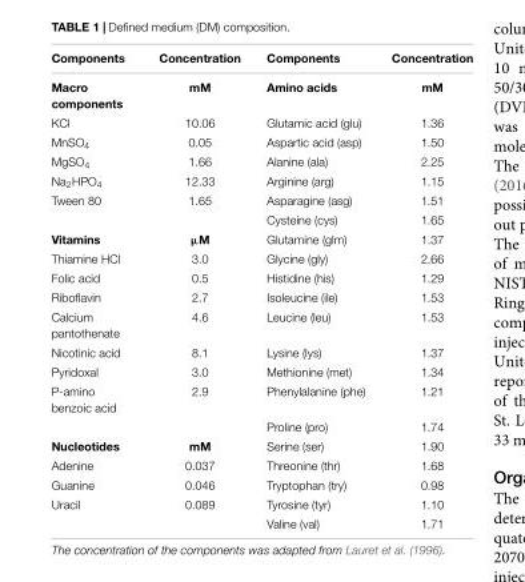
<table><thead><tr><td>Components</td><td>Concentration</td><td>Components</td><td>Concentration</td></tr></thead><tbody><tr><td>Macro components</td><td>mM</td><td>Amino acids</td><td>mM</td></tr><tr><td>KCl</td><td>10.06</td><td>Glutamic acid (glu)</td><td>1.36</td></tr><tr><td>MnSO<sub>4</sub></td><td>0.05</td><td>Aspartic acid (asp)</td><td>1.50</td></tr><tr><td>MgSO<sub>4</sub></td><td>1.66</td><td>Alanine (ala)</td><td>2.25</td></tr><tr><td>Na<sub>2</sub>HPO<sub>4</sub></td><td>12.33</td><td>Arginine (arg)</td><td>1.15</td></tr><tr><td rowspan="2">Tween 80</td><td>1.65</td><td>Asparagine (asg)</td><td>1.51</td></tr><tr><td></td><td>Cysteine (cys)</td><td>1.65</td></tr><tr><td>Vitamins</td><td>µM</td><td>Glutamine (glm)</td><td>1.37</td></tr><tr><td>Thiamine HCl</td><td>3.0</td><td>Glycine (gly)</td><td>2.66</td></tr><tr><td>Folic acid</td><td>0.5</td><td>Histidine (his)</td><td>1.29</td></tr><tr><td>Riboflavin</td><td>2.7</td><td>Isoleucine (ile)</td><td>1.53</td></tr><tr><td>Calcium pantothenate</td><td>4.6</td><td>Leucine (leu)</td><td>1.53</td></tr><tr><td>Nicotinic acid</td><td>8.1</td><td>Lysine (lys)</td><td>1.37</td></tr><tr><td>Pyridoxal</td><td>3.0</td><td>Methionine (met)</td><td>1.34</td></tr><tr><td rowspan="2">P-amino benzoic acid</td><td>2.9</td><td>Phenylalanine (phe)</td><td>1.21</td></tr><tr><td></td><td>Proline (pro)</td><td>1.74</td></tr><tr><td>Nucleotides</td><td>mM</td><td>Serine (ser)</td><td>1.90</td></tr><tr><td>Adenine</td><td>0.037</td><td>Threonine (thr)</td><td>1.68</td></tr><tr><td>Guanine</td><td>0.046</td><td>Tryptophan (try)</td><td>0.98</td></tr><tr><td rowspan="2">Uracil</td><td>0.089</td><td>Tyrosine (tyr)</td><td>1.10</td></tr><tr><td></td><td>Valine (val)</td><td>1.71</td></tr></tbody></table>